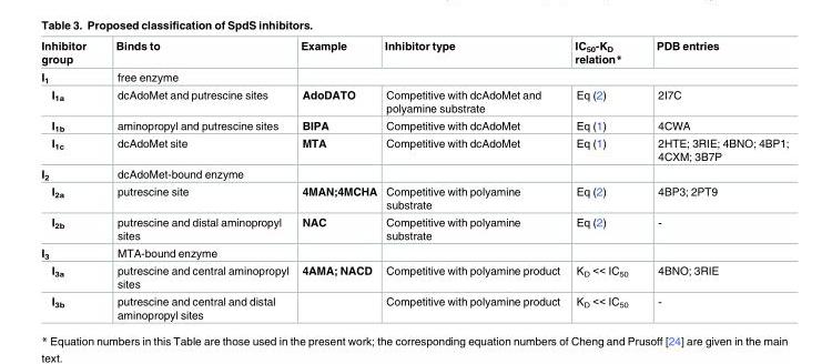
<table><thead><tr><td>Inhibitor group</td><td>Binds to</td><td>Example</td><td>Inhibitor type</td><td>IC<sub>50</sub>-K<sub>D</sub> relation*</td><td>PDB entries</td></tr></thead><tbody><tr><td>I<sub>1</sub></td><td>free enzyme</td><td colspan="4"></td></tr><tr><td>I<sub>1a</sub></td><td>dcAdoMet and putrescine sites</td><td>AdoDATO</td><td>Competitive with dcAdoMet and polyamine substrate</td><td>Eq (2)</td><td>2I7C</td></tr><tr><td>I<sub>1b</sub></td><td>aminopropyl and putrescine sites</td><td>BIPA</td><td>Competitive with dcAdoMet</td><td>Eq (1)</td><td>4CWA</td></tr><tr><td>I<sub>1c</sub></td><td>dcAdoMet site</td><td>MTA</td><td>Competitive with dcAdoMet</td><td>Eq (1)</td><td>2HTE; 3RIE; 4BNO; 4BP1; 4CXM; 3B7P</td></tr><tr><td>I<sub>2</sub></td><td>dcAdoMet-bound enzyme</td><td></td><td></td><td></td><td></td></tr><tr><td>I<sub>2a</sub></td><td>putrescine site</td><td>4MAN;4MCHA</td><td>Competitive with polyamine substrate</td><td>Eq (2)</td><td>4BP3; 2PT9</td></tr><tr><td>I<sub>2b</sub></td><td>putrescine and distal aminopropyl sites</td><td>NAC</td><td>Competitive with polyamine substrate</td><td>Eq (2)</td><td>-</td></tr><tr><td>I<sub>3</sub></td><td>MTA-bound enzyme</td><td></td><td></td><td></td><td></td></tr><tr><td>I<sub>3a</sub></td><td>putrescine and central aminopropyl sites</td><td>4AMA; NACD</td><td>Competitive with polyamine product</td><td>K<sub>D</sub> &lt;&lt; IC<sub>50</sub></td><td>4BNO; 3RIE</td></tr><tr><td>I<sub>3b</sub></td><td>putrescine and central and distal aminopropyl sites</td><td></td><td>Competitive with polyamine product</td><td>K<sub>D</sub> &lt;&lt; IC<sub>50</sub></td><td>-</td></tr></tbody></table>